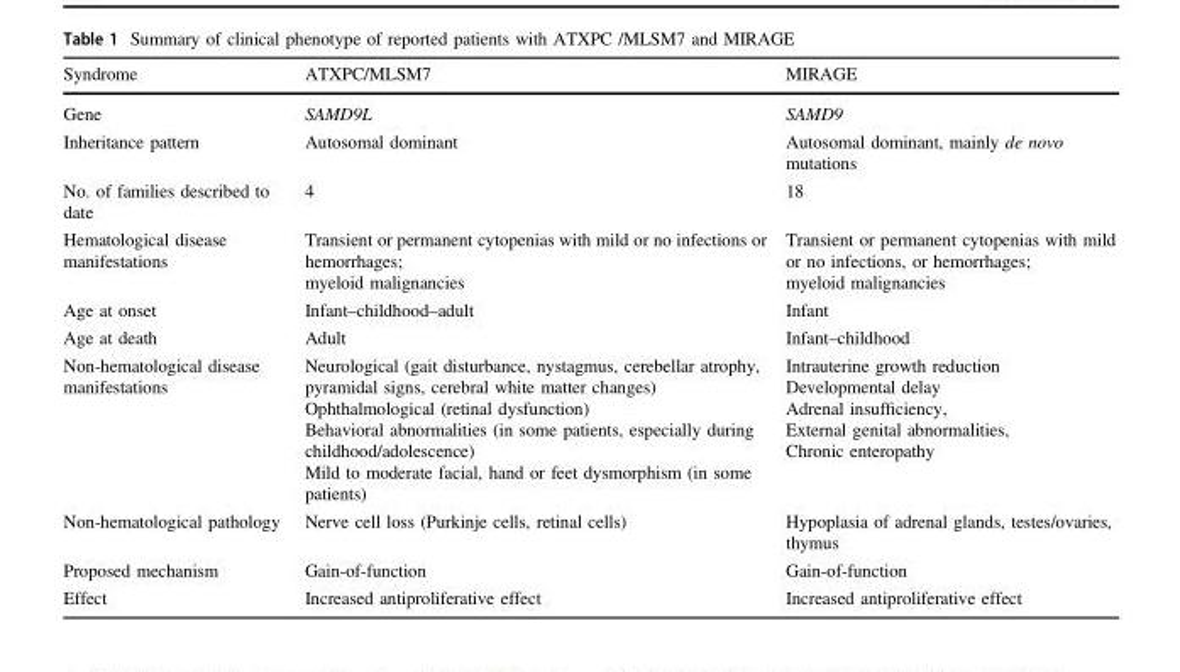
<table><thead><tr><td>Syndrome</td><td>ATXPC/MLSM7</td><td>MIRAGE</td></tr></thead><tbody><tr><td>Gene</td><td>SAMD9L</td><td>SAMD9</td></tr><tr><td>Inheritance pattern</td><td>Autosomal dominant</td><td>Autosomal dominant, mainly de novo mutations</td></tr><tr><td>No. of families described to date</td><td>4</td><td>18</td></tr><tr><td>Hematological disease manifestations</td><td>Transient or permanent cytopenias with mild or no infections or hemorrhages; myeloid malignancies</td><td>Transient or permanent cytopenias with mild or no infections, or hemorrhages; myeloid malignancies</td></tr><tr><td>Age at onset</td><td>Infant–childhood–adult</td><td>Infant</td></tr><tr><td>Age at death</td><td>Adult</td><td>Infant–childhood</td></tr><tr><td>Non-hematological disease manifestations</td><td>Neurological (gait disturbance, nystagmus, cerebellar atrophy, pyramidal signs, cerebral white matter changes) Ophthalmological (retinal dysfunction) Behavioral abnormalities (in some patients, especially during childhood/adolescence) Mild to moderate facial, hand or feet dysmorphism (in some patients)</td><td>Intrauterine growth reduction Developmental delay Adrenal insufficiency, External genital abnormalities, Chronic enteropathy</td></tr><tr><td>Non-hematological pathology</td><td>Nerve cell loss (Purkinje cells, retinal cells)</td><td>Hypoplasia of adrenal glands, testes/ovaries, thymus</td></tr><tr><td>Proposed mechanism</td><td>Gain-of-function</td><td>Gain-of-function</td></tr><tr><td>Effect</td><td>Increased antiproliferative effect</td><td>Increased antiproliferative effect</td></tr></tbody></table>